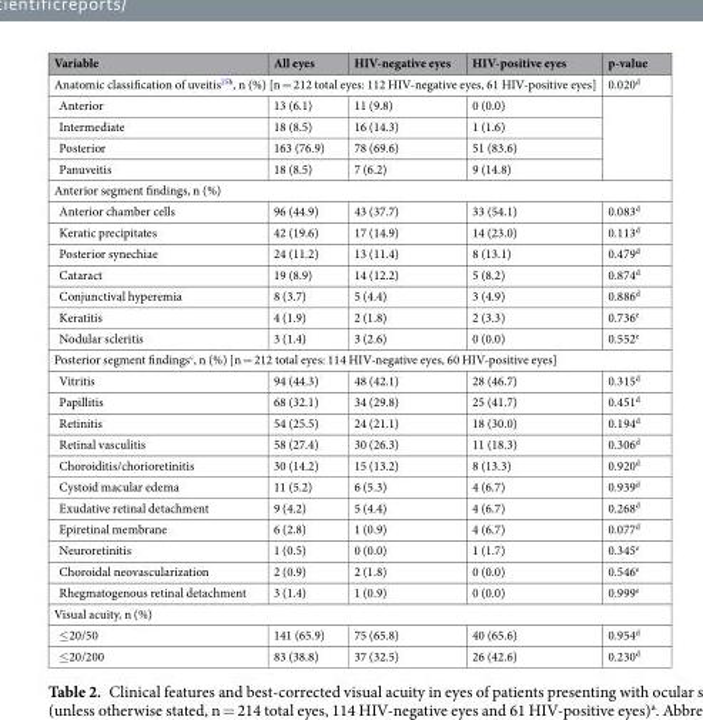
<table><thead><tr><td>Variable</td><td>All eyes</td><td>HIV-negative eyes</td><td>HIV-positive eyes</td><td>p-value</td></tr></thead><tbody><tr><td colspan="4">Anatomic classification of uveitis<sup>25b</sup>, n (%) [n = 212 total eyes: 112 HIV-negative eyes, 61 HIV-positive eyes]</td><td>0.020<sup>d</sup></td></tr><tr><td>Anterior</td><td>13 (6.1)</td><td>11 (9.8)</td><td>0 (0.0)</td><td rowspan="4"></td></tr><tr><td>Intermediate</td><td>18 (8.5)</td><td>16 (14.3)</td><td>1 (1.6)</td></tr><tr><td>Posterior</td><td>163 (76.9)</td><td>78 (69.6)</td><td>51 (83.6)</td></tr><tr><td>Panuveitis</td><td>18 (8.5)</td><td>7 (6.2)</td><td>9 (14.8)</td></tr><tr><td colspan="5">Anterior segment findings, n (%)</td></tr><tr><td>Anterior chamber cells</td><td>96 (44.9)</td><td>43 (37.7)</td><td>33 (54.1)</td><td>0.083<sup>d</sup></td></tr><tr><td>Keratic precipitates</td><td>42 (19.6)</td><td>17 (14.9)</td><td>14 (23.0)</td><td>0.113<sup>d</sup></td></tr><tr><td>Posterior synechiae</td><td>24 (11.2)</td><td>13 (11.4)</td><td>8 (13.1)</td><td>0.479<sup>d</sup></td></tr><tr><td>Cataract</td><td>19 (8.9)</td><td>14 (12.2)</td><td>5 (8.2)</td><td>0.874<sup>d</sup></td></tr><tr><td>Conjunctival hyperemia</td><td>8 (3.7)</td><td>5 (4.4)</td><td>3 (4.9)</td><td>0.886<sup>d</sup></td></tr><tr><td>Keratitis</td><td>4 (1.9)</td><td>2 (1.8)</td><td>2 (3.3)</td><td>0.736<sup>e</sup></td></tr><tr><td>Nodular scleritis</td><td>3 (1.4)</td><td>3 (2.6)</td><td>0 (0.0)</td><td>0.552<sup>e</sup></td></tr><tr><td colspan="5">Posterior segment findings<sup>c</sup>, n (%) [n = 212 total eyes: 114 HIV-negative eyes, 60 HIV-positive eyes]</td></tr><tr><td>Vitritis</td><td>94 (44.3)</td><td>48 (42.1)</td><td>28 (46.7)</td><td>0.315<sup>d</sup></td></tr><tr><td>Papillitis</td><td>68 (32.1)</td><td>34 (29.8)</td><td>25 (41.7)</td><td>0.451<sup>d</sup></td></tr><tr><td>Retinitis</td><td>54 (25.5)</td><td>24 (21.1)</td><td>18 (30.0)</td><td>0.194<sup>d</sup></td></tr><tr><td>Retinal vasculitis</td><td>58 (27.4)</td><td>30 (26.3)</td><td>11 (18.3)</td><td>0.306<sup>d</sup></td></tr><tr><td>Choroiditis/chorioretinitis</td><td>30 (14.2)</td><td>15 (13.2)</td><td>8 (13.3)</td><td>0.920<sup>d</sup></td></tr><tr><td>Cystoid macular edema</td><td>11 (5.2)</td><td>6 (5.3)</td><td>4 (6.7)</td><td>0.939<sup>d</sup></td></tr><tr><td>Exudative retinal detachment</td><td>9 (4.2)</td><td>5 (4.4)</td><td>4 (6.7)</td><td>0.268<sup>d</sup></td></tr><tr><td>Epiretinal membrane</td><td>6 (2.8)</td><td>1 (0.9)</td><td>4 (6.7)</td><td>0.077<sup>d</sup></td></tr><tr><td>Neuroretinitis</td><td>1 (0.5)</td><td>0 (0.0)</td><td>1 (1.7)</td><td>0.345<sup>e</sup></td></tr><tr><td>Choroidal neovascularization</td><td>2 (0.9)</td><td>2 (1.8)</td><td>0 (0.0)</td><td>0.546<sup>e</sup></td></tr><tr><td>Rhegmatogenous retinal detachment</td><td>3 (1.4)</td><td>1 (0.9)</td><td>0 (0.0)</td><td>0.999<sup>e</sup></td></tr><tr><td colspan="5">Visual acuity, n (%)</td></tr><tr><td>≤20/50</td><td>141 (65.9)</td><td>75 (65.8)</td><td>40 (65.6)</td><td>0.954<sup>d</sup></td></tr><tr><td>≤20/200</td><td>83 (38.8)</td><td>37 (32.5)</td><td>26 (42.6)</td><td>0.230<sup>d</sup></td></tr></tbody></table>